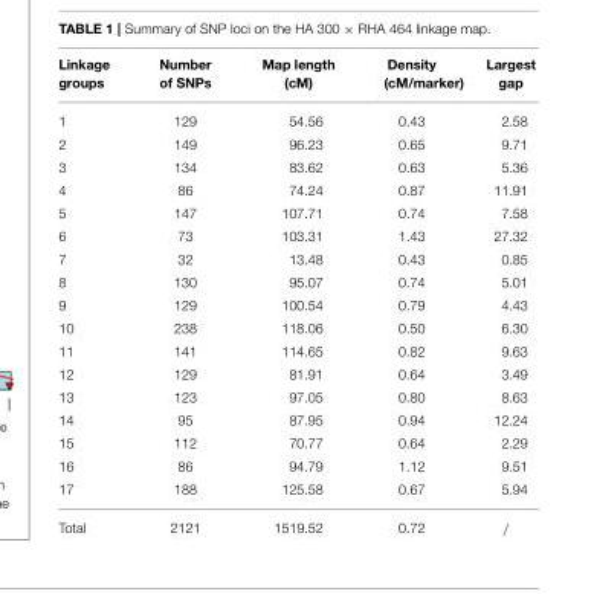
<table><thead><tr><td>Linkage groups</td><td>Number of SNPs</td><td>Map length (cM)</td><td>Density (cM/marker)</td><td>Largest gap</td></tr></thead><tbody><tr><td>1</td><td>129</td><td>54.56</td><td>0.43</td><td>2.58</td></tr><tr><td>2</td><td>149</td><td>96.23</td><td>0.65</td><td>9.71</td></tr><tr><td>3</td><td>134</td><td>83.62</td><td>0.63</td><td>5.36</td></tr><tr><td>4</td><td>86</td><td>74.24</td><td>0.87</td><td>11.91</td></tr><tr><td>5</td><td>147</td><td>107.71</td><td>0.74</td><td>7.58</td></tr><tr><td>6</td><td>73</td><td>103.31</td><td>1.43</td><td>27.32</td></tr><tr><td>7</td><td>32</td><td>13.48</td><td>0.43</td><td>0.85</td></tr><tr><td>8</td><td>130</td><td>95.07</td><td>0.74</td><td>5.01</td></tr><tr><td>9</td><td>129</td><td>100.54</td><td>0.79</td><td>4.43</td></tr><tr><td>10</td><td>238</td><td>118.06</td><td>0.50</td><td>6.30</td></tr><tr><td>11</td><td>141</td><td>114.65</td><td>0.82</td><td>9.63</td></tr><tr><td>12</td><td>129</td><td>81.91</td><td>0.64</td><td>3.49</td></tr><tr><td>13</td><td>123</td><td>97.05</td><td>0.80</td><td>8.63</td></tr><tr><td>14</td><td>95</td><td>87.95</td><td>0.94</td><td>12.24</td></tr><tr><td>15</td><td>112</td><td>70.77</td><td>0.64</td><td>2.29</td></tr><tr><td>16</td><td>86</td><td>94.79</td><td>1.12</td><td>9.51</td></tr><tr><td>17</td><td>188</td><td>125.58</td><td>0.67</td><td>5.94</td></tr><tr><td>Total</td><td>2121</td><td>1519.52</td><td>0.72</td><td>/</td></tr></tbody></table>